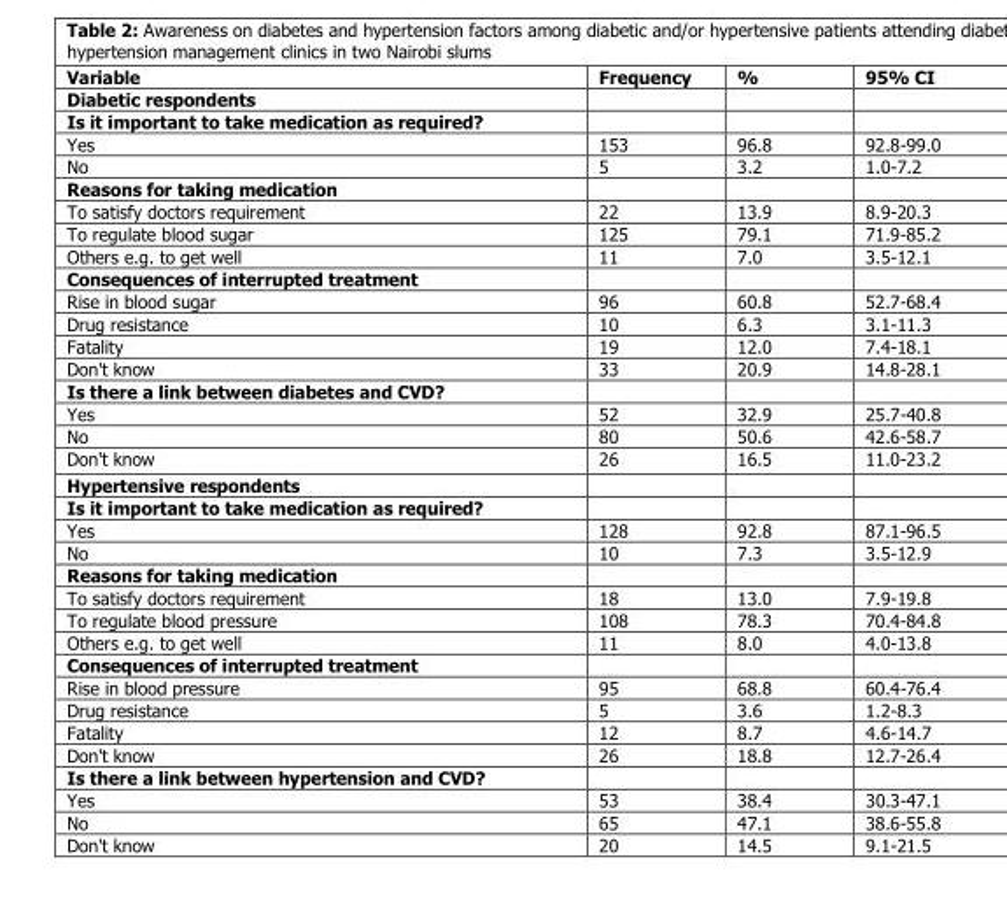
<table><thead><tr><td>Variable</td><td>Frequency</td><td>%</td><td>95% CI</td></tr></thead><tbody><tr><td colspan="4">Diabetic respondents</td></tr><tr><td colspan="4">Is it important to take medication as required?</td></tr><tr><td>Yes</td><td>153</td><td>96.8</td><td>92.8-99.0</td></tr><tr><td>No</td><td>5</td><td>3.2</td><td>1.0-7.2</td></tr><tr><td colspan="4">Reasons for taking medication</td></tr><tr><td>To satisfy doctors requirement</td><td>22</td><td>13.9</td><td>8.9-20.3</td></tr><tr><td>To regulate blood sugar</td><td>125</td><td>79.1</td><td>71.9-85.2</td></tr><tr><td>Others e.g. to get well</td><td>11</td><td>7.0</td><td>3.5-12.1</td></tr><tr><td colspan="4">Consequences of interrupted treatment</td></tr><tr><td>Rise in blood sugar</td><td>96</td><td>60.8</td><td>52.7-68.4</td></tr><tr><td>Drug resistance</td><td>10</td><td>6.3</td><td>3.1-11.3</td></tr><tr><td>Fatality</td><td>19</td><td>12.0</td><td>7.4-18.1</td></tr><tr><td>Don&#x27;t know</td><td>33</td><td>20.9</td><td>14.8-28.1</td></tr><tr><td colspan="4">Is there a link between diabetes and CVD?</td></tr><tr><td>Yes</td><td>52</td><td>32.9</td><td>25.7-40.8</td></tr><tr><td>No</td><td>80</td><td>50.6</td><td>42.6-58.7</td></tr><tr><td>Don&#x27;t know</td><td>26</td><td>16.5</td><td>11.0-23.2</td></tr><tr><td colspan="4">Hypertensive respondents</td></tr><tr><td colspan="4">Is it important to take medication as required?</td></tr><tr><td>Yes</td><td>128</td><td>92.8</td><td>87.1-96.5</td></tr><tr><td>No</td><td>10</td><td>7.3</td><td>3.5-12.9</td></tr><tr><td colspan="4">Reasons for taking medication</td></tr><tr><td>To satisfy doctors requirement</td><td>18</td><td>13.0</td><td>7.9-19.8</td></tr><tr><td>To regulate blood pressure</td><td>108</td><td>78.3</td><td>70.4-84.8</td></tr><tr><td>Others e.g. to get well</td><td>11</td><td>8.0</td><td>4.0-13.8</td></tr><tr><td colspan="4">Consequences of interrupted treatment</td></tr><tr><td>Rise in blood pressure</td><td>95</td><td>68.8</td><td>60.4-76.4</td></tr><tr><td>Drug resistance</td><td>5</td><td>3.6</td><td>1.2-8.3</td></tr><tr><td>Fatality</td><td>12</td><td>8.7</td><td>4.6-14.7</td></tr><tr><td>Don&#x27;t know</td><td>26</td><td>18.8</td><td>12.7-26.4</td></tr><tr><td colspan="4">Is there a link between hypertension and CVD?</td></tr><tr><td>Yes</td><td>53</td><td>38.4</td><td>30.3-47.1</td></tr><tr><td>No</td><td>65</td><td>47.1</td><td>38.6-55.8</td></tr><tr><td>Don&#x27;t know</td><td>20</td><td>14.5</td><td>9.1-21.5</td></tr></tbody></table>